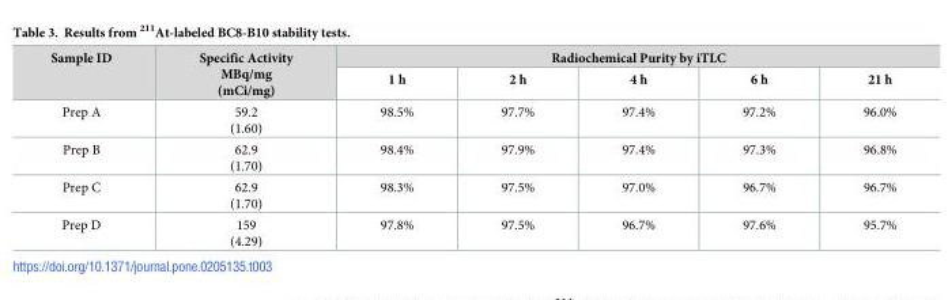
<table><thead><tr><td rowspan="2">Sample ID</td><td rowspan="2">Specific Activity MBq/mg (mCi/mg)</td><td colspan="5">Radiochemical Purity by iTLC</td></tr><tr><td>1 h</td><td>2 h</td><td>4 h</td><td>6 h</td><td>21 h</td></tr></thead><tbody><tr><td>Prep A</td><td>59.2 (1.60)</td><td>98.5%</td><td>97.7%</td><td>97.4%</td><td>97.2%</td><td>96.0%</td></tr><tr><td>Prep B</td><td>62.9 (1.70)</td><td>98.4%</td><td>97.9%</td><td>97.4%</td><td>97.3%</td><td>96.8%</td></tr><tr><td>Prep C</td><td>62.9 (1.70)</td><td>98.3%</td><td>97.5%</td><td>97.0%</td><td>96.7%</td><td>96.7%</td></tr><tr><td>Prep D</td><td>159 (4.29)</td><td>97.8%</td><td>97.5%</td><td>96.7%</td><td>97.6%</td><td>95.7%</td></tr></tbody></table>